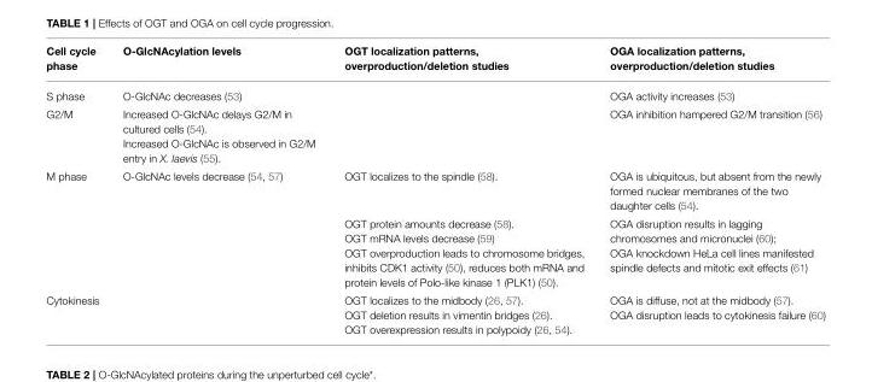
<table><thead><tr><td>Cell cycle phase</td><td>O-GlcNAcylation levels</td><td>OGT localization patterns, overproduction/deletion studies</td><td>OGA localization patterns, overproduction/deletion studies</td></tr></thead><tbody><tr><td>S phase</td><td>O-GlcNAc decreases (53)</td><td></td><td>OGA activity increases (53)</td></tr><tr><td>G2/M</td><td>Increased O-GlcNAc delays G2/M in cultured cells (54). Increased O-GlcNAc is observed in G2/M entry in X. laevis (55).</td><td></td><td>OGA inhibition hampered G2/M transition (56)</td></tr><tr><td rowspan="2">M phase</td><td>O-GlcNAc levels decrease (54, 57)</td><td>OGT localizes to the spindle (58).</td><td>OGA is ubiquitous, but absent from the newly formed nuclear membranes of the two daughter cells (54).</td></tr><tr><td></td><td>OGT protein amounts decrease (58). OGT mRNA levels decrease (59) OGT overproduction leads to chromosome bridges, inhibits CDK1 activity (50), reduces both mRNA and protein levels of Polo-like kinase 1 (PLK1) (50).</td><td>OGA disruption results in lagging chromosomes and micronuclei (60); OGA knockdown HeLa cell lines manifested spindle defects and mitotic exit effects (61)</td></tr><tr><td>Cytokinesis</td><td></td><td>OGT localizes to the midbody (26, 57). OGT deletion results in vimentin bridges (26). OGT overexpression results in polypoidy (26, 54).</td><td>OGA is diffuse, not at the midbody (57). OGA disruption leads to cytokinesis failure (60)</td></tr></tbody></table>